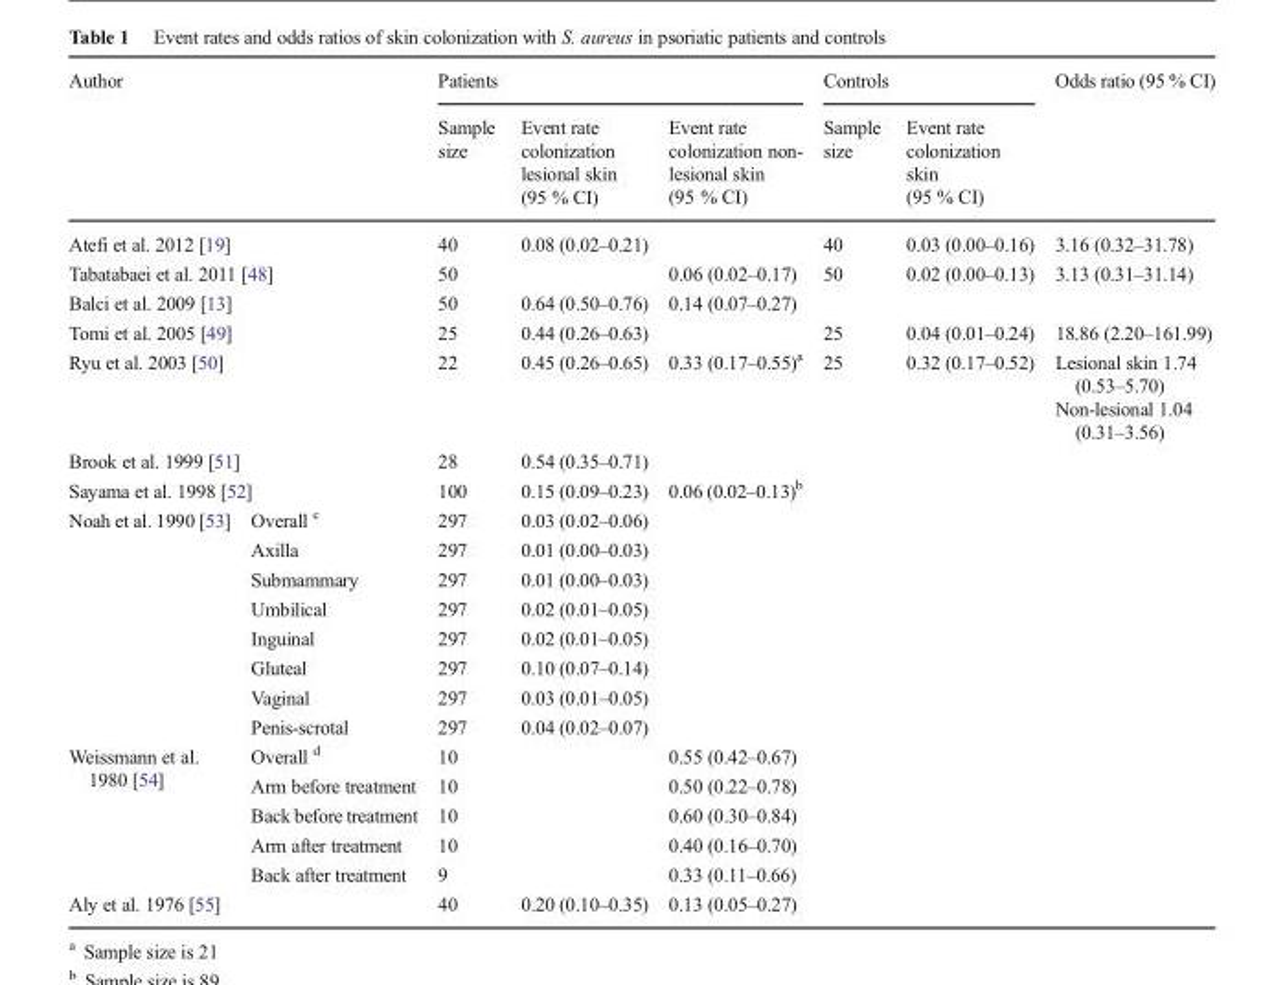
<table><thead><tr><td rowspan="2" colspan="2">Author</td><td colspan="3">Patients</td><td colspan="2">Controls</td><td rowspan="2">Odds ratio (95 % CI)</td></tr><tr><td>Sample size</td><td>Event rate colonization lesional skin (95 % CI)</td><td>Event rate colonization non- lesional skin (95 % CI)</td><td>Sample size</td><td>Event rate colonization skin (95 % CI)</td></tr></thead><tbody><tr><td colspan="2">Atefi et al. 2012 [19]</td><td>40</td><td>0.08 (0.02–0.21)</td><td></td><td>40</td><td>0.03 (0.00–0.16)</td><td>3.16 (0.32–31.78)</td></tr><tr><td colspan="2">Tabatabaei et al. 2011 [48]</td><td>50</td><td></td><td>0.06 (0.02–0.17)</td><td>50</td><td>0.02 (0.00–0.13)</td><td>3.13 (0.31–31.14)</td></tr><tr><td colspan="2">Balci et al. 2009 [13]</td><td>50</td><td>0.64 (0.50–0.76)</td><td>0.14 (0.07–0.27)</td><td></td><td></td><td></td></tr><tr><td colspan="2">Tomi et al. 2005 [49]</td><td>25</td><td>0.44 (0.26–0.63)</td><td></td><td>25</td><td>0.04 (0.01–0.24)</td><td>18.86 (2.20–161.99)</td></tr><tr><td colspan="2">Ryu et al. 2003 [50]</td><td>22</td><td>0.45 (0.26–0.65)</td><td>0.33 (0.17–0.55)<sup>a</sup></td><td>25</td><td>0.32 (0.17–0.52)</td><td>Lesional skin 1.74 (0.53–5.70) Non-lesional 1.04 (0.31–3.56)</td></tr><tr><td colspan="2">Brook et al. 1999 [51]</td><td>28</td><td>0.54 (0.35–0.71)</td><td></td><td></td><td></td><td></td></tr><tr><td colspan="2">Sayama et al. 1998 [52]</td><td>100</td><td>0.15 (0.09–0.23)</td><td>0.06 (0.02–0.13)<sup>b</sup></td><td></td><td></td><td></td></tr><tr><td rowspan="8">Noah et al. 1990 [53]</td><td>Overall <sup>c</sup></td><td>297</td><td>0.03 (0.02–0.06)</td><td></td><td></td><td></td><td></td></tr><tr><td>Axilla</td><td>297</td><td>0.01 (0.00–0.03)</td><td></td><td></td><td></td><td></td></tr><tr><td>Submammary</td><td>297</td><td>0.01 (0.00–0.03)</td><td></td><td></td><td></td><td></td></tr><tr><td>Umbilical</td><td>297</td><td>0.02 (0.01–0.05)</td><td></td><td></td><td></td><td></td></tr><tr><td>Inguinal</td><td>297</td><td>0.02 (0.01–0.05)</td><td></td><td></td><td></td><td></td></tr><tr><td>Gluteal</td><td>297</td><td>0.10 (0.07–0.14)</td><td></td><td></td><td></td><td></td></tr><tr><td>Vaginal</td><td>297</td><td>0.03 (0.01–0.05)</td><td></td><td></td><td></td><td></td></tr><tr><td>Penis-scrotal</td><td>297</td><td>0.04 (0.02–0.07)</td><td></td><td></td><td></td><td></td></tr><tr><td rowspan="5">Weissmann et al. 1980 [54]</td><td>Overall <sup>d</sup></td><td>10</td><td></td><td>0.55 (0.42–0.67)</td><td></td><td></td><td></td></tr><tr><td>Arm before treatment</td><td>10</td><td></td><td>0.50 (0.22–0.78)</td><td></td><td></td><td></td></tr><tr><td>Back before treatment</td><td>10</td><td></td><td>0.60 (0.30–0.84)</td><td></td><td></td><td></td></tr><tr><td>Arm after treatment</td><td>10</td><td></td><td>0.40 (0.16–0.70)</td><td></td><td></td><td></td></tr><tr><td>Back after treatment</td><td>9</td><td></td><td>0.33 (0.11–0.66)</td><td></td><td></td><td></td></tr><tr><td colspan="2">Aly et al. 1976 [55]</td><td>40</td><td>0.20 (0.10–0.35)</td><td>0.13 (0.05–0.27)</td><td></td><td></td><td></td></tr></tbody></table>